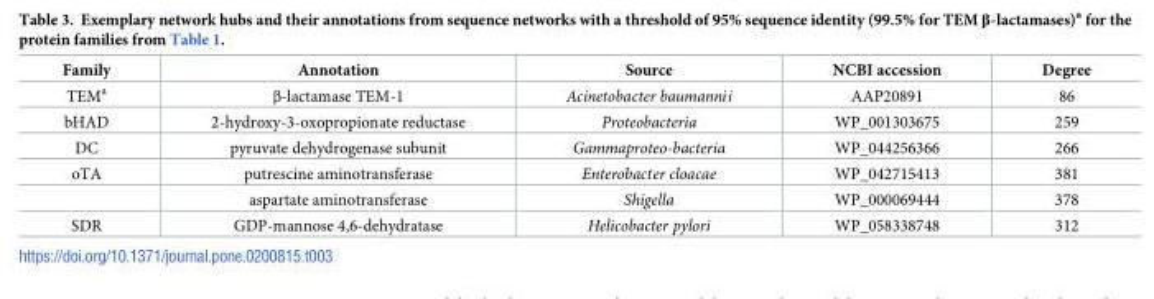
<table><thead><tr><td>Family</td><td>Annotation</td><td>Source</td><td>NCBI accession</td><td>Degree</td></tr></thead><tbody><tr><td>TEM<sup>a</sup></td><td>β-lactamase TEM-1</td><td>Acinetobacter baumannii</td><td>AAP20891</td><td>86</td></tr><tr><td>bHAD</td><td>2-hydroxy-3-oxopropionate reductase</td><td>Proteobacteria</td><td>WP_001303675</td><td>259</td></tr><tr><td>DC</td><td>pyruvate dehydrogenase subunit</td><td>Gammaproteo-bacteria</td><td>WP_044256366</td><td>266</td></tr><tr><td rowspan="2">oTA</td><td>putrescine aminotransferase</td><td>Enterobacter cloacae</td><td>WP_042715413</td><td>381</td></tr><tr><td>aspartate aminotransferase</td><td>Shigella</td><td>WP_000069444</td><td>378</td></tr><tr><td>SDR</td><td>GDP-mannose 4,6-dehydratase</td><td>Helicobacter pylori</td><td>WP_058338748</td><td>312</td></tr></tbody></table>